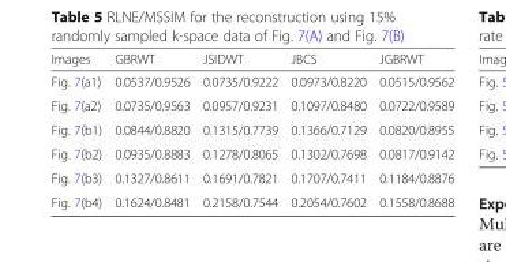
<table><thead><tr><td>Images</td><td>GBRWT</td><td>JSIDWT</td><td>JBCS</td><td>JGBRWT</td></tr></thead><tbody><tr><td>Fig. 7(a1)</td><td>0.0537/0.9526</td><td>0.0735/0.9222</td><td>0.0973/0.8220</td><td>0.0515/0.9562</td></tr><tr><td>Fig. 7(a2)</td><td>0.0735/0.9563</td><td>0.0957/0.9231</td><td>0.1097/0.8480</td><td>0.0722/0.9589</td></tr><tr><td>Fig. 7(b1)</td><td>0.0844/0.8820</td><td>0.1315/0.7739</td><td>0.1366/0.7129</td><td>0.0820/0.8955</td></tr><tr><td>Fig. 7(b2)</td><td>0.0935/0.8883</td><td>0.1278/0.8065</td><td>0.1302/0.7698</td><td>0.0817/0.9142</td></tr><tr><td>Fig. 7(b3)</td><td>0.1327/0.8611</td><td>0.1691/0.7821</td><td>0.1707/0.7411</td><td>0.1184/0.8876</td></tr><tr><td>Fig. 7(b4)</td><td>0.1624/0.8481</td><td>0.2158/0.7544</td><td>0.2054/0.7602</td><td>0.1558/0.8688</td></tr></tbody></table>